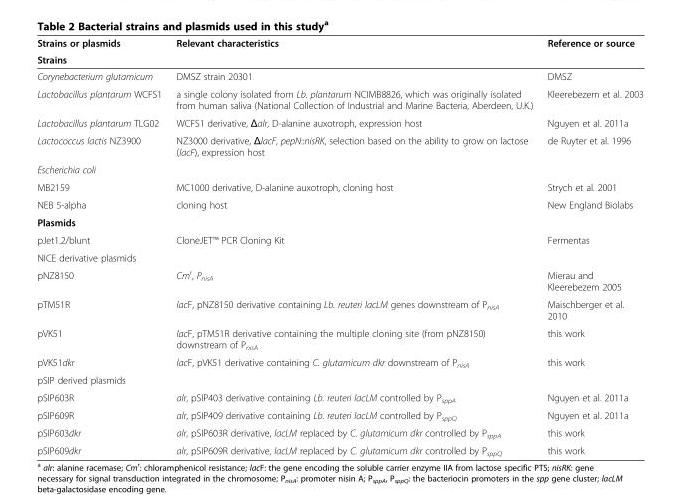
<table><thead><tr><td rowspan="2">Strains or plasmids Strains</td><td rowspan="2">Relevant characteristics</td><td rowspan="2">Reference or source</td></tr><tr></tr></thead><tbody><tr><td>Corynebacterium glutamicum</td><td>DMSZ strain 20301</td><td>DMSZ</td></tr><tr><td>Lactobacillus plantarum WCFS1</td><td>a single colony isolated from Lb. plantarum NCIMB8826, which was originally isolated from human saliva (National Collection of Industrial and Marine Bacteria, Aberdeen, U.K.)</td><td>Kleerebezem et al. 2003</td></tr><tr><td>Lactobacillus plantarum TLG02</td><td>WCFS1 derivative, Δalr, D-alanine auxotroph, expression host</td><td>Nguyen et al. 2011a</td></tr><tr><td>Lactococcus lactis NZ3900</td><td>NZ3000 derivative, ΔlacF, pepN::nisRK, selection based on the ability to grow on lactose (lacF), expression host</td><td>de Ruyter et al. 1996</td></tr><tr><td colspan="3">Escherichia coli</td></tr><tr><td>MB2159</td><td>MC1000 derivative, D-alanine auxotroph, cloning host</td><td>Strych et al. 2001</td></tr><tr><td>NEB 5-alpha</td><td>cloning host</td><td>New England Biolabs</td></tr><tr><td colspan="3">Plasmids</td></tr><tr><td>pJet1.2/blunt</td><td>CloneJET™ PCR Cloning Kit</td><td>Fermentas</td></tr><tr><td colspan="3">NICE derivative plasmids</td></tr><tr><td>pNZ8150</td><td>Cm<sup>r</sup>, P<sub>nisA</sub></td><td>Mierau and Kleerebezem 2005</td></tr><tr><td>pTM51R</td><td>lacF, pNZ8150 derivative containing Lb. reuteri lacLM genes downstream of P<sub>nisA</sub></td><td>Maischberger et al. 2010</td></tr><tr><td>pVK51</td><td>lacF, pTM51R derivative containing the multiple cloning site (from pNZ8150) downstream of P<sub>nisA</sub></td><td>this work</td></tr><tr><td>pVK51dkr</td><td>lacF, pVK51 derivative containing C. glutamicum dkr downstream of P<sub>nisA</sub></td><td>this work</td></tr><tr><td colspan="3">pSIP derived plasmids</td></tr><tr><td>pSIP603R</td><td>alr, pSIP403 derivative containing Lb. reuteri lacLM controlled by P<sub>sppA</sub></td><td>Nguyen et al. 2011a</td></tr><tr><td>pSIP609R</td><td>alr, pSIP409 derivative containing Lb. reuteri lacLM controlled by P<sub>sppQ</sub></td><td>Nguyen et al. 2011a</td></tr><tr><td>pSIP603dkr</td><td>alr, pSIP603R derivative, lacLM replaced by C. glutamicum dkr controlled by P<sub>sppA</sub></td><td>this work</td></tr><tr><td>pSIP609dkr</td><td>alr, pSIP609R derivative, lacLM replaced by C. glutamicum dkr controlled by P<sub>sppQ</sub></td><td>this work</td></tr></tbody></table>